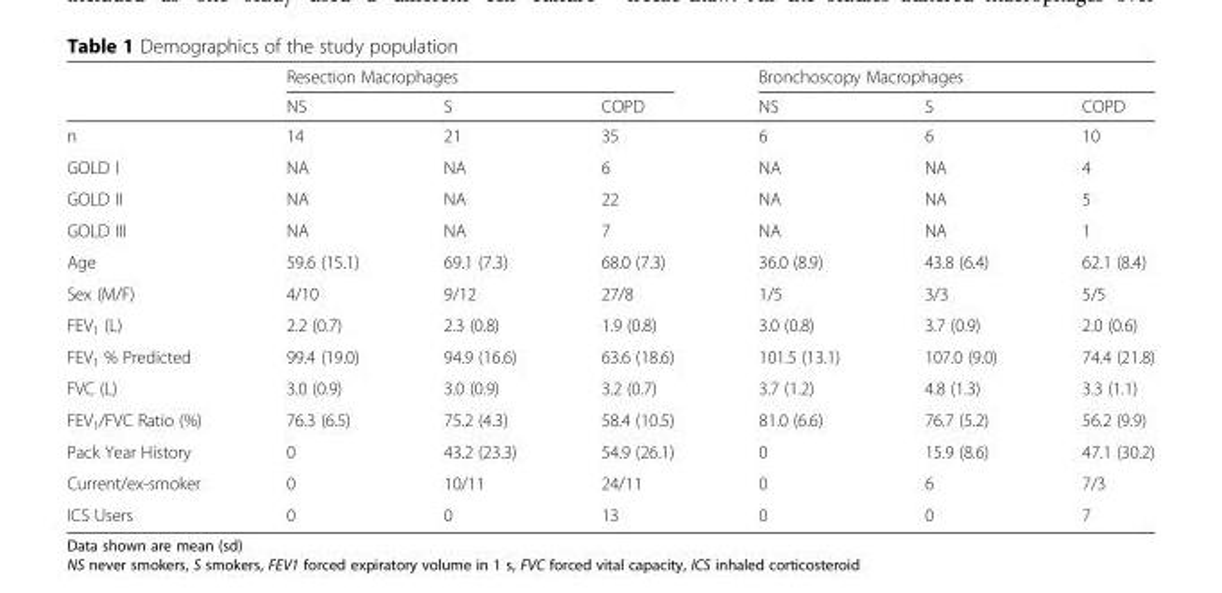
<table><thead><tr><td rowspan="2"></td><td colspan="3">Resection Macrophages</td><td colspan="3">Bronchoscopy Macrophages</td></tr><tr><td>NS</td><td>S</td><td>COPD</td><td>NS</td><td>S</td><td>COPD</td></tr></thead><tbody><tr><td>n</td><td>14</td><td>21</td><td>35</td><td>6</td><td>6</td><td>10</td></tr><tr><td>GOLD I</td><td>NA</td><td>NA</td><td>6</td><td>NA</td><td>NA</td><td>4</td></tr><tr><td>GOLD II</td><td>NA</td><td>NA</td><td>22</td><td>NA</td><td>NA</td><td>5</td></tr><tr><td>GOLD III</td><td>NA</td><td>NA</td><td>7</td><td>NA</td><td>NA</td><td>1</td></tr><tr><td>Age</td><td>59.6 (15.1)</td><td>69.1 (7.3)</td><td>68.0 (7.3)</td><td>36.0 (8.9)</td><td>43.8 (6.4)</td><td>62.1 (8.4)</td></tr><tr><td>Sex (M/F)</td><td>4/10</td><td>9/12</td><td>27/8</td><td>1/5</td><td>3/3</td><td>5/5</td></tr><tr><td>FEV<sub>1</sub> (L)</td><td>2.2 (0.7)</td><td>2.3 (0.8)</td><td>1.9 (0.8)</td><td>3.0 (0.8)</td><td>3.7 (0.9)</td><td>2.0 (0.6)</td></tr><tr><td>FEV<sub>1</sub> % Predicted</td><td>99.4 (19.0)</td><td>94.9 (16.6)</td><td>63.6 (18.6)</td><td>101.5 (13.1)</td><td>107.0 (9.0)</td><td>74.4 (21.8)</td></tr><tr><td>FVC (L)</td><td>3.0 (0.9)</td><td>3.0 (0.9)</td><td>3.2 (0.7)</td><td>3.7 (1.2)</td><td>4.8 (1.3)</td><td>3.3 (1.1)</td></tr><tr><td>FEV<sub>1</sub>/FVC Ratio (%)</td><td>76.3 (6.5)</td><td>75.2 (4.3)</td><td>58.4 (10.5)</td><td>81.0 (6.6)</td><td>76.7 (5.2)</td><td>56.2 (9.9)</td></tr><tr><td>Pack Year History</td><td>0</td><td>43.2 (23.3)</td><td>54.9 (26.1)</td><td>0</td><td>15.9 (8.6)</td><td>47.1 (30.2)</td></tr><tr><td>Current/ex-smoker</td><td>0</td><td>10/11</td><td>24/11</td><td>0</td><td>6</td><td>7/3</td></tr><tr><td>ICS Users</td><td>0</td><td>0</td><td>13</td><td>0</td><td>0</td><td>7</td></tr></tbody></table>